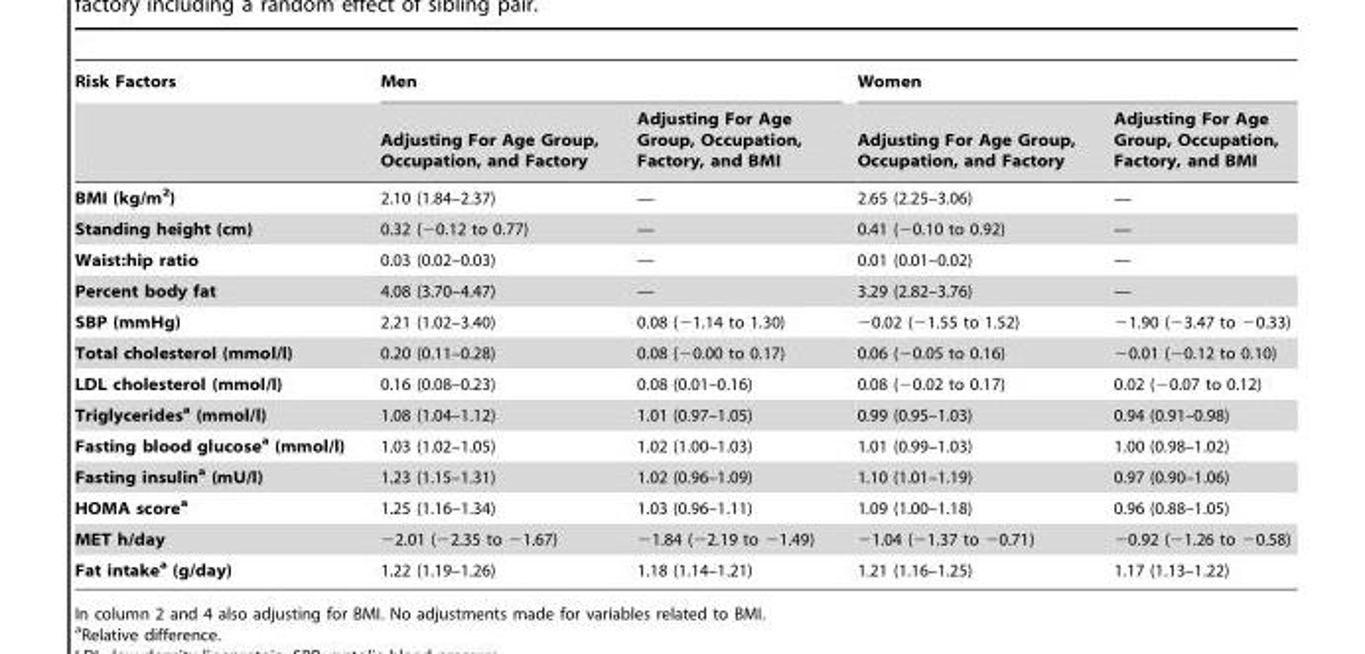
<table><thead><tr><td rowspan="2">Risk Factors</td><td colspan="2">Men</td><td colspan="2">Women</td></tr><tr><td>Adjusting For Age Group, Occupation, and Factory</td><td>Adjusting For Age Group, Occupation, Factory, and BMI</td><td>Adjusting For Age Group, Occupation, and Factory</td><td>Adjusting For Age Group, Occupation, Factory, and BMI</td></tr></thead><tbody><tr><td>BMI (kg/m<sup>2</sup>)</td><td>2.10 (1.84–2.37)</td><td>—</td><td>2.65 (2.25–3.06)</td><td>—</td></tr><tr><td>Standing height (cm)</td><td>0.32 (−0.12 to 0.77)</td><td>—</td><td>0.41 (−0.10 to 0.92)</td><td>—</td></tr><tr><td>Waist:hip ratio</td><td>0.03 (0.02–0.03)</td><td>—</td><td>0.01 (0.01–0.02)</td><td>—</td></tr><tr><td>Percent body fat</td><td>4.08 (3.70–4.47)</td><td>—</td><td>3.29 (2.82–3.76)</td><td>—</td></tr><tr><td>SBP (mmHg)</td><td>2.21 (1.02–3.40)</td><td>0.08 (−1.14 to 1.30)</td><td>−0.02 (−1.55 to 1.52)</td><td>−1.90 (−3.47 to −0.33)</td></tr><tr><td>Total cholesterol (mmol/l)</td><td>0.20 (0.11–0.28)</td><td>0.08 (−0.00 to 0.17)</td><td>0.06 (−0.05 to 0.16)</td><td>−0.01 (−0.12 to 0.10)</td></tr><tr><td>LDL cholesterol (mmol/l)</td><td>0.16 (0.08–0.23)</td><td>0.08 (0.01–0.16)</td><td>0.08 (−0.02 to 0.17)</td><td>0.02 (−0.07 to 0.12)</td></tr><tr><td>Triglyceridesa (mmol/l)</td><td>1.08 (1.04–1.12)</td><td>1.01 (0.97–1.05)</td><td>0.99 (0.95–1.03)</td><td>0.94 (0.91–0.98)</td></tr><tr><td>Fasting blood glucosea (mmol/l)</td><td>1.03 (1.02–1.05)</td><td>1.02 (1.00–1.03)</td><td>1.01 (0.99–1.03)</td><td>1.00 (0.98–1.02)</td></tr><tr><td>Fasting insulina (mU/l)</td><td>1.23 (1.15–1.31)</td><td>1.02 (0.96–1.09)</td><td>1.10 (1.01–1.19)</td><td>0.97 (0.90–1.06)</td></tr><tr><td>HOMA scorea</td><td>1.25 (1.16–1.34)</td><td>1.03 (0.96–1.11)</td><td>1.09 (1.00–1.18)</td><td>0.96 (0.88–1.05)</td></tr><tr><td>MET h/day</td><td>−2.01 (−2.35 to −1.67)</td><td>−1.84 (−2.19 to −1.49)</td><td>−1.04 (−1.37 to −0.71)</td><td>−0.92 (−1.26 to −0.58)</td></tr><tr><td>Fat intakea (g/day)</td><td>1.22 (1.19–1.26)</td><td>1.18 (1.14–1.21)</td><td>1.21 (1.16–1.25)</td><td>1.17 (1.13–1.22)</td></tr></tbody></table>